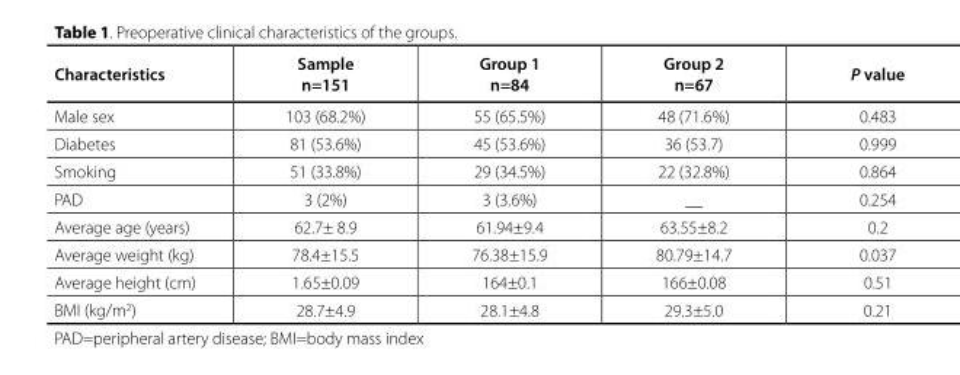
<table><thead><tr><td>Characteristics</td><td>Sample n=151</td><td>Group 1 n=84</td><td>Group 2 n=67</td><td>P value</td></tr></thead><tbody><tr><td>Male sex</td><td>103 (68.2%)</td><td>55 (65.5%)</td><td>48 (71.6%)</td><td>0.483</td></tr><tr><td>Diabetes</td><td>81 (53.6%)</td><td>45 (53.6%)</td><td>36 (53.7)</td><td>0.999</td></tr><tr><td>Smoking</td><td>51 (33.8%)</td><td>29 (34.5%)</td><td>22 (32.8%)</td><td>0.864</td></tr><tr><td>PAD</td><td>3 (2%)</td><td>3 (3.6%)</td><td>__</td><td>0.254</td></tr><tr><td>Average age (years)</td><td>62.7± 8.9</td><td>61.94±9.4</td><td>63.55±8.2</td><td>0.2</td></tr><tr><td>Average weight (kg)</td><td>78.4±15.5</td><td>76.38±15.9</td><td>80.79±14.7</td><td>0.037</td></tr><tr><td>Average height (cm)</td><td>1.65±0.09</td><td>164±0.1</td><td>166±0.08</td><td>0.51</td></tr><tr><td>BMI (kg/m<sup>2</sup>)</td><td>28.7±4.9</td><td>28.1±4.8</td><td>29.3±5.0</td><td>0.21</td></tr></tbody></table>